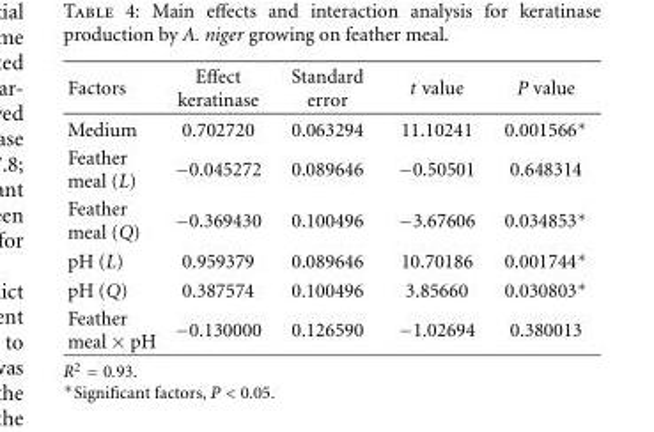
<table><thead><tr><td>Factors</td><td>Effect keratinase</td><td>Standard error</td><td>t value</td><td>P value</td></tr></thead><tbody><tr><td>Medium</td><td>0.702720</td><td>0.063294</td><td>11.10241</td><td>0.001566∗</td></tr><tr><td>Feather meal (L)</td><td>−0.045272</td><td>0.089646</td><td>−0.50501</td><td>0.648314</td></tr><tr><td>Feather meal (Q)</td><td>−0.369430</td><td>0.100496</td><td>−3.67606</td><td>0.034853∗</td></tr><tr><td>pH (L)</td><td>0.959379</td><td>0.089646</td><td>10.70186</td><td>0.001744∗</td></tr><tr><td>pH (Q)</td><td>0.387574</td><td>0.100496</td><td>3.85660</td><td>0.030803∗</td></tr><tr><td>Feather meal × pH</td><td>−0.130000</td><td>0.126590</td><td>−1.02694</td><td>0.380013</td></tr></tbody></table>